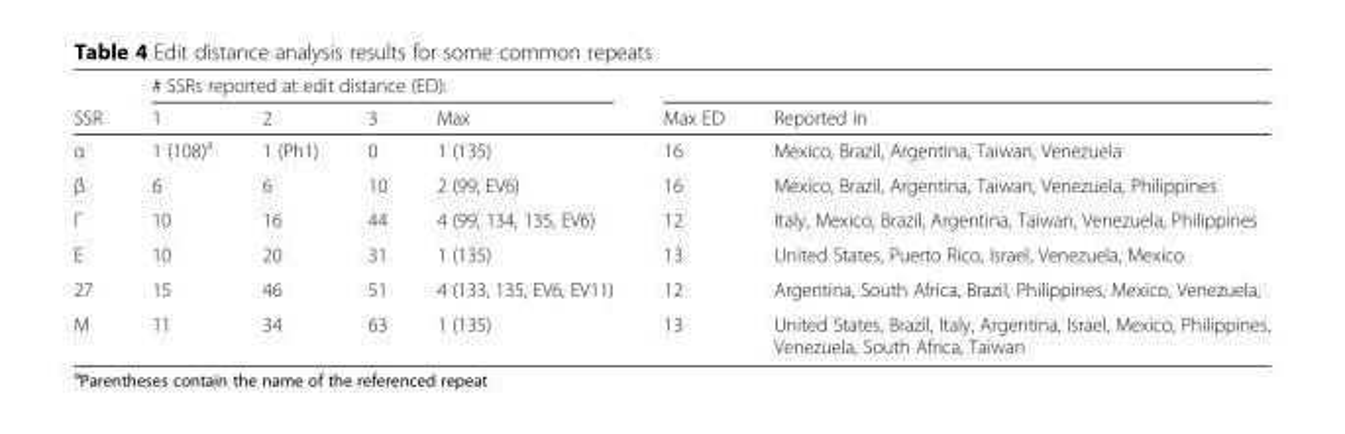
<table><thead><tr><td rowspan="2">SSR</td><td colspan="4"># SSRs reported at edit distance (ED):</td><td rowspan="2">Max ED</td><td rowspan="2">Reported in</td></tr><tr><td>1</td><td>2</td><td>3</td><td>Max</td></tr></thead><tbody><tr><td>α</td><td>1 (108)<sup>a</sup></td><td>1 (Ph1)</td><td>0</td><td>1 (135)</td><td>16</td><td>Mexico, Brazil, Argentina, Taiwan, Venezuela</td></tr><tr><td>β</td><td>6</td><td>6</td><td>10</td><td>2 (99, EV6)</td><td>16</td><td>Mexico, Brazil, Argentina, Taiwan, Venezuela, Philippines</td></tr><tr><td>Γ</td><td>10</td><td>16</td><td>44</td><td>4 (99, 134, 135, EV6)</td><td>12</td><td>Italy, Mexico, Brazil, Argentina, Taiwan, Venezuela, Philippines</td></tr><tr><td>E</td><td>10</td><td>20</td><td>31</td><td>1 (135)</td><td>13</td><td>United States, Puerto Rico, Israel, Venezuela, Mexico</td></tr><tr><td>27</td><td>15</td><td>46</td><td>51</td><td>4 (133, 135, EV6, EV11)</td><td>12</td><td>Argentina, South Africa, Brazil, Philippines, Mexico, Venezuela,</td></tr><tr><td>M</td><td>11</td><td>34</td><td>63</td><td>1 (135)</td><td>13</td><td>United States, Brazil, Italy, Argentina, Israel, Mexico, Philippines, Venezuela, South Africa, Taiwan</td></tr></tbody></table>